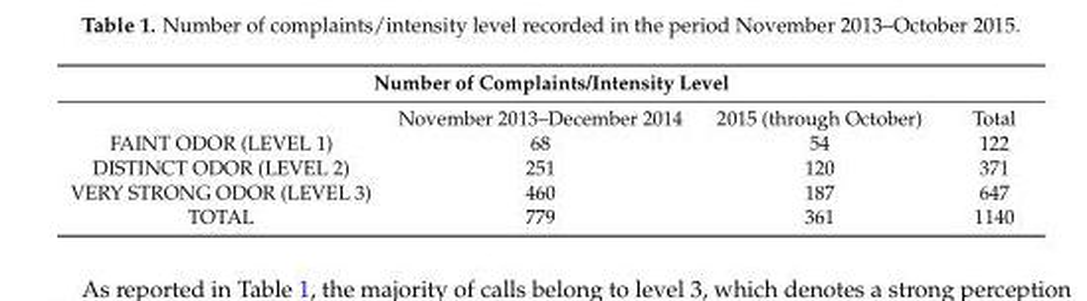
<table><thead><tr><td colspan="4">Number of Complaints/Intensity Level</td></tr><tr><td></td><td>November 2013–December 2014</td><td>2015 (through October)</td><td>Total</td></tr></thead><tbody><tr><td>FAINT ODOR (LEVEL 1)</td><td>68</td><td>54</td><td>122</td></tr><tr><td>DISTINCT ODOR (LEVEL 2)</td><td>251</td><td>120</td><td>371</td></tr><tr><td>VERY STRONG ODOR (LEVEL 3)</td><td>460</td><td>187</td><td>647</td></tr><tr><td>TOTAL</td><td>779</td><td>361</td><td>1140</td></tr></tbody></table>